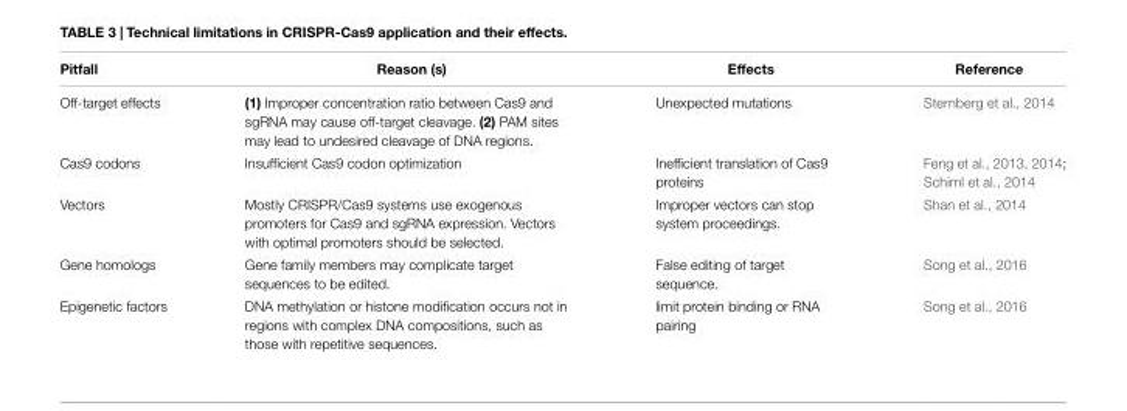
<table><thead><tr><td>Pitfall</td><td>Reason (s)</td><td>Effects</td><td>Reference</td></tr></thead><tbody><tr><td>Off-target effects</td><td>(1) Improper concentration ratio between Cas9 and sgRNA may cause off-target cleavage. (2) PAM sites may lead to undesired cleavage of DNA regions.</td><td>Unexpected mutations</td><td>Sternberg et al., 2014</td></tr><tr><td>Cas9 codons</td><td>Insufficient Cas9 codon optimization</td><td>Inefficient translation of Cas9 proteins</td><td>Feng et al., 2013, 2014; Schiml et al., 2014</td></tr><tr><td>Vectors</td><td>Mostly CRISPR/Cas9 systems use exogenous promoters for Cas9 and sgRNA expression. Vectors with optimal promoters should be selected.</td><td>Improper vectors can stop system proceedings.</td><td>Shan et al., 2014</td></tr><tr><td>Gene homologs</td><td>Gene family members may complicate target sequences to be edited.</td><td>False editing of target sequence.</td><td>Song et al., 2016</td></tr><tr><td>Epigenetic factors</td><td>DNA methylation or histone modification occurs not in regions with complex DNA compositions, such as those with repetitive sequences.</td><td>limit protein binding or RNA pairing</td><td>Song et al., 2016</td></tr></tbody></table>